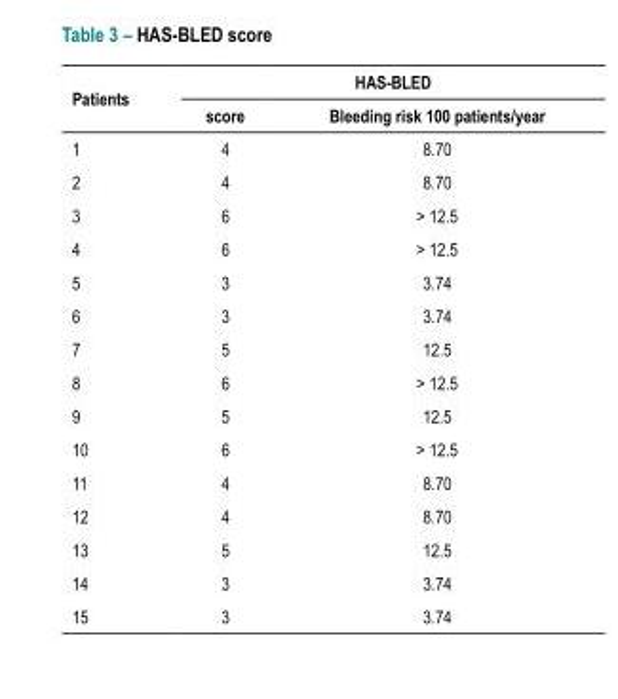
<table><thead><tr><td rowspan="2">Patients</td><td colspan="2">HAS-BLED</td></tr><tr><td>score</td><td>Bleeding risk 100 patients/year</td></tr></thead><tbody><tr><td>1</td><td>4</td><td>8.70</td></tr><tr><td>2</td><td>4</td><td>8.70</td></tr><tr><td>3</td><td>6</td><td>&gt; 12.5</td></tr><tr><td>4</td><td>6</td><td>&gt; 12.5</td></tr><tr><td>5</td><td>3</td><td>3.74</td></tr><tr><td>6</td><td>3</td><td>3.74</td></tr><tr><td>7</td><td>5</td><td>12.5</td></tr><tr><td>8</td><td>6</td><td>&gt; 12.5</td></tr><tr><td>9</td><td>5</td><td>12.5</td></tr><tr><td>10</td><td>6</td><td>&gt; 12.5</td></tr><tr><td>11</td><td>4</td><td>8.70</td></tr><tr><td>12</td><td>4</td><td>8.70</td></tr><tr><td>13</td><td>5</td><td>12.5</td></tr><tr><td>14</td><td>3</td><td>3.74</td></tr><tr><td>15</td><td>3</td><td>3.74</td></tr></tbody></table>